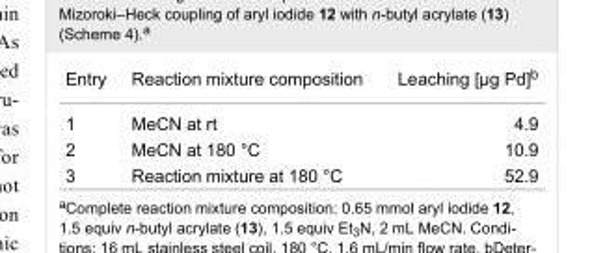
<table><tbody><tr><td>Entry</td><td>Reaction mixture composition</td><td>Leaching [μg Pd]<sup>b</sup></td></tr><tr><td>1</td><td>MeCN at rt</td><td>4.9</td></tr><tr><td>2</td><td>MeCN at 180 °C</td><td>10.9</td></tr><tr><td>3</td><td>Reaction mixture at 180 °C</td><td>52.9</td></tr></tbody></table>